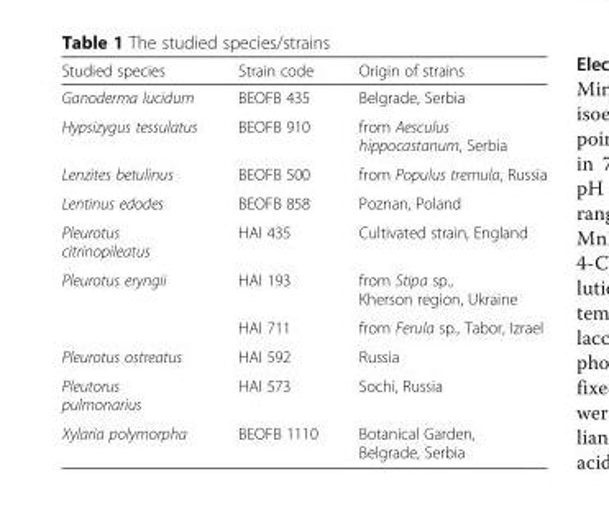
<table><thead><tr><td>Studied species</td><td>Strain code</td><td>Origin of strains</td></tr></thead><tbody><tr><td>Ganoderma lucidum</td><td>BEOFB 435</td><td>Belgrade, Serbia</td></tr><tr><td>Hypsizygus tessulatus</td><td>BEOFB 910</td><td>from Aesculus hippocastanum, Serbia</td></tr><tr><td>Lenzites betulinus</td><td>BEOFB 500</td><td>from Populus tremula, Russia</td></tr><tr><td>Lentinus edodes</td><td>BEOFB 858</td><td>Poznan, Poland</td></tr><tr><td>Pleurotus citrinopileatus</td><td>HAI 435</td><td>Cultivated strain, England</td></tr><tr><td rowspan="2">Pleurotus eryngii</td><td>HAI 193</td><td>from Stipa sp., Kherson region, Ukraine</td></tr><tr><td>HAI 711</td><td>from Ferula sp., Tabor, Izrael</td></tr><tr><td>Pleurotus ostreatus</td><td>HAI 592</td><td>Russia</td></tr><tr><td>Pleutorus pulmonarius</td><td>HAI 573</td><td>Sochi, Russia</td></tr><tr><td>Xylaria polymorpha</td><td>BEOFB 1110</td><td>Botanical Garden, Belgrade, Serbia</td></tr></tbody></table>